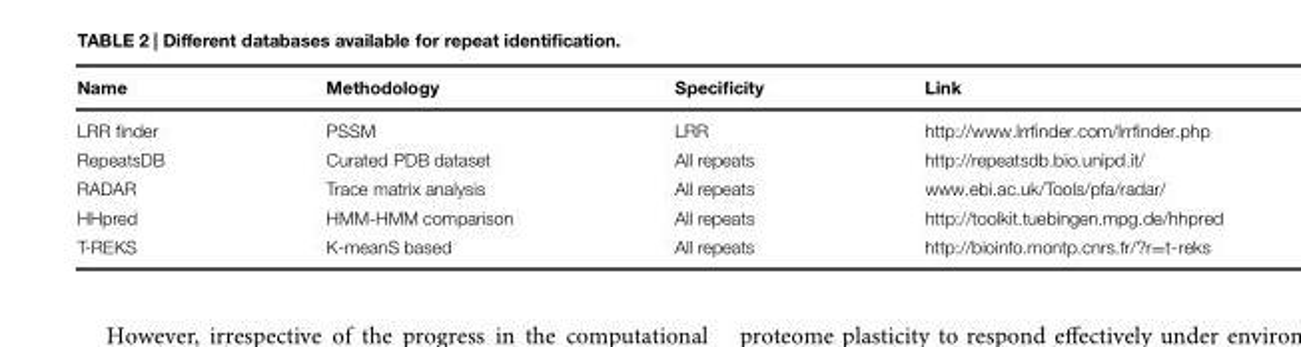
<table><thead><tr><td>Name</td><td>Methodology</td><td>Specificity</td><td>Link</td></tr></thead><tbody><tr><td>LRR finder</td><td>PSSM</td><td>LRR</td><td>http://www.lrrfinder.com/lrrfinder.php</td></tr><tr><td>RepeatsDB</td><td>Curated PDB dataset</td><td>All repeats</td><td>http://repeatsdb.bio.unipd.it/</td></tr><tr><td>RADAR</td><td>Trace matrix analysis</td><td>All repeats</td><td>www.ebi.ac.uk/Tools/pfa/radar/</td></tr><tr><td>HHpred</td><td>HMM-HMM comparison</td><td>All repeats</td><td>http://toolkit.tuebingen.mpg.de/hhpred</td></tr><tr><td>T-REKS</td><td>K-meanS based</td><td>All repeats</td><td>http://bioinfo.montp.cnrs.fr/?r=t-reks</td></tr></tbody></table>